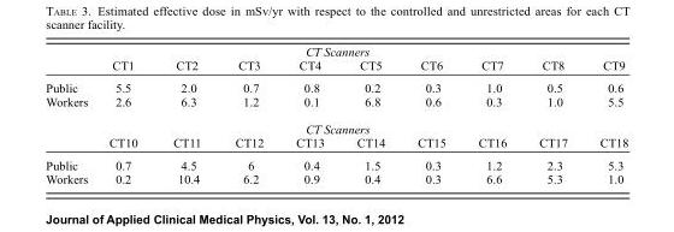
<table><thead><tr><td rowspan="2"></td><td rowspan="2">CT1</td><td rowspan="2">CT2</td><td rowspan="2">CT3</td><td colspan="2">CT Scanners</td><td rowspan="2">CT6</td><td rowspan="2">CT7</td><td rowspan="2">CT8</td><td rowspan="2">CT9</td></tr><tr><td>CT4</td><td>CT5</td></tr></thead><tbody><tr><td>Public</td><td>5.5</td><td>2.0</td><td>0.7</td><td>0.8</td><td>0.2</td><td>0.3</td><td>1.0</td><td>0.5</td><td>0.6</td></tr><tr><td rowspan="3">Workers</td><td>2.6</td><td>6.3</td><td>1.2</td><td>0.1</td><td>6.8</td><td>0.6</td><td>0.3</td><td>1.0</td><td>5.5</td></tr><tr><td></td><td></td><td></td><td colspan="2">CT Scanners</td><td></td><td></td><td></td><td></td></tr><tr><td>CT10</td><td>CT11</td><td>CT12</td><td>CT13</td><td>CT14</td><td>CT15</td><td>CT16</td><td>CT17</td><td>CT18</td></tr><tr><td>Public</td><td>0.7</td><td>4.5</td><td>6</td><td>0.4</td><td>1.5</td><td>0.3</td><td>1.2</td><td>2.3</td><td>5.3</td></tr><tr><td>Workers</td><td>0.2</td><td>10.4</td><td>6.2</td><td>0.9</td><td>0.4</td><td>0.3</td><td>6.6</td><td>5.3</td><td>1.0</td></tr></tbody></table>